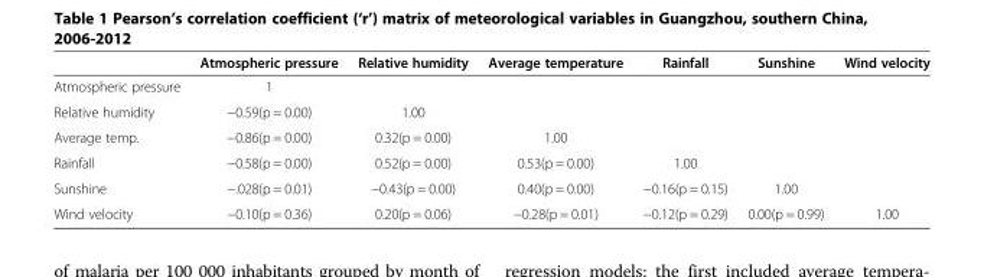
<table><thead><tr><td></td><td>Atmospheric pressure</td><td>Relative humidity</td><td>Average temperature</td><td>Rainfall</td><td>Sunshine</td><td>Wind velocity</td></tr></thead><tbody><tr><td>Atmospheric pressure</td><td>1</td><td></td><td></td><td></td><td></td><td></td></tr><tr><td>Relative humidity</td><td>−0.59(p = 0.00)</td><td>1.00</td><td></td><td></td><td></td><td></td></tr><tr><td>Average temp.</td><td>−0.86(p = 0.00)</td><td>0.32(p = 0.00)</td><td>1.00</td><td></td><td></td><td></td></tr><tr><td>Rainfall</td><td>−0.58(p = 0.00)</td><td>0.52(p = 0.00)</td><td>0.53(p = 0.00)</td><td>1.00</td><td></td><td></td></tr><tr><td>Sunshine</td><td>−.028(p = 0.01)</td><td>−0.43(p = 0.00)</td><td>0.40(p = 0.00)</td><td>−0.16(p = 0.15)</td><td>1.00</td><td></td></tr><tr><td>Wind velocity</td><td>−0.10(p = 0.36)</td><td>0.20(p = 0.06)</td><td>−0.28(p = 0.01)</td><td>−0.12(p = 0.29)</td><td>0.00(p = 0.99)</td><td>1.00</td></tr></tbody></table>